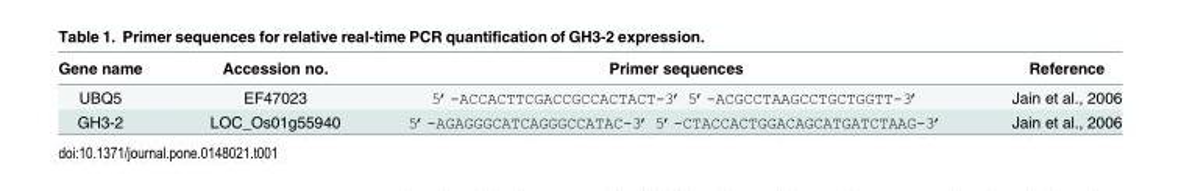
<table><thead><tr><td>Gene name</td><td>Accession no.</td><td>Primer sequences</td><td>Reference</td></tr></thead><tbody><tr><td>UBQ5</td><td>EF47023</td><td>5’-ACCACTTCGACCGCCACTACT-3’ 5’-ACGCCTAAGCCTGCTGGTT-3’</td><td>Jain et al., 2006</td></tr><tr><td>GH3-2</td><td>LOC_Os01g55940</td><td>5’-AGAGGGCATCAGGGCCATAC-3’ 5’-CTACCACTGGACAGCATGATCTAAG-3’</td><td>Jain et al., 2006</td></tr></tbody></table>